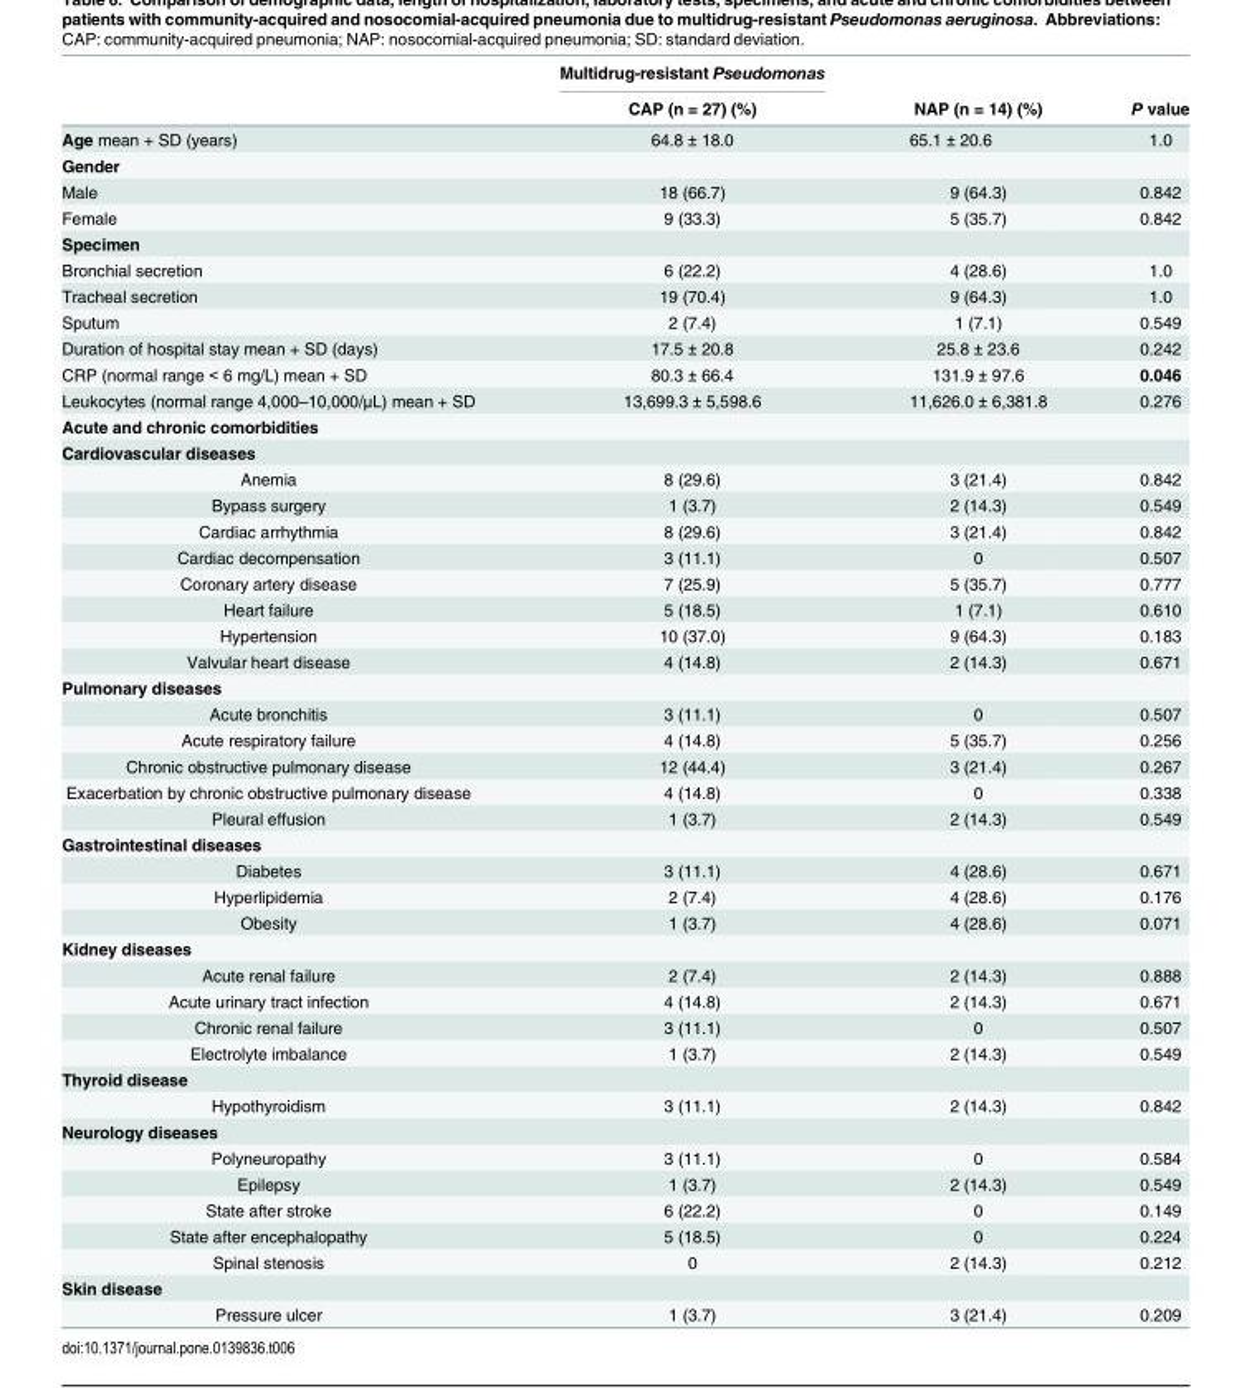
<table><thead><tr><td rowspan="2"></td><td rowspan="2">Multidrug-resistant Pseudomonas CAP (n = 27) (%)</td><td rowspan="2">NAP (n = 14) (%)</td><td rowspan="2">P value</td></tr><tr></tr></thead><tbody><tr><td>Age mean + SD (years)</td><td>64.8 ± 18.0</td><td>65.1 ± 20.6</td><td>1.0</td></tr><tr><td colspan="4">Gender</td></tr><tr><td>Male</td><td>18 (66.7)</td><td>9 (64.3)</td><td>0.842</td></tr><tr><td>Female</td><td>9 (33.3)</td><td>5 (35.7)</td><td>0.842</td></tr><tr><td colspan="4">Specimen</td></tr><tr><td>Bronchial secretion</td><td>6 (22.2)</td><td>4 (28.6)</td><td>1.0</td></tr><tr><td>Tracheal secretion</td><td>19 (70.4)</td><td>9 (64.3)</td><td>1.0</td></tr><tr><td>Sputum</td><td>2 (7.4)</td><td>1 (7.1)</td><td>0.549</td></tr><tr><td>Duration of hospital stay mean + SD (days)</td><td>17.5 ± 20.8</td><td>25.8 ± 23.6</td><td>0.242</td></tr><tr><td>CRP (normal range &lt; 6 mg/L) mean + SD</td><td>80.3 ± 66.4</td><td>131.9 ± 97.6</td><td>0.046</td></tr><tr><td>Leukocytes (normal range 4,000–10,000/μL) mean + SD</td><td>13,699.3 ± 5,598.6</td><td>11,626.0 ± 6,381.8</td><td>0.276</td></tr><tr><td colspan="4">Acute and chronic comorbidities</td></tr><tr><td colspan="4">Cardiovascular diseases</td></tr><tr><td>Anemia</td><td>8 (29.6)</td><td>3 (21.4)</td><td>0.842</td></tr><tr><td>Bypass surgery</td><td>1 (3.7)</td><td>2 (14.3)</td><td>0.549</td></tr><tr><td>Cardiac arrhythmia</td><td>8 (29.6)</td><td>3 (21.4)</td><td>0.842</td></tr><tr><td>Cardiac decompensation</td><td>3 (11.1)</td><td>0</td><td>0.507</td></tr><tr><td>Coronary artery disease</td><td>7 (25.9)</td><td>5 (35.7)</td><td>0.777</td></tr><tr><td>Heart failure</td><td>5 (18.5)</td><td>1 (7.1)</td><td>0.610</td></tr><tr><td>Hypertension</td><td>10 (37.0)</td><td>9 (64.3)</td><td>0.183</td></tr><tr><td>Valvular heart disease</td><td>4 (14.8)</td><td>2 (14.3)</td><td>0.671</td></tr><tr><td colspan="4">Pulmonary diseases</td></tr><tr><td>Acute bronchitis</td><td>3 (11.1)</td><td>0</td><td>0.507</td></tr><tr><td>Acute respiratory failure</td><td>4 (14.8)</td><td>5 (35.7)</td><td>0.256</td></tr><tr><td>Chronic obstructive pulmonary disease</td><td>12 (44.4)</td><td>3 (21.4)</td><td>0.267</td></tr><tr><td>Exacerbation by chronic obstructive pulmonary disease</td><td>4 (14.8)</td><td>0</td><td>0.338</td></tr><tr><td>Pleural effusion</td><td>1 (3.7)</td><td>2 (14.3)</td><td>0.549</td></tr><tr><td colspan="4">Gastrointestinal diseases</td></tr><tr><td>Diabetes</td><td>3 (11.1)</td><td>4 (28.6)</td><td>0.671</td></tr><tr><td>Hyperlipidemia</td><td>2 (7.4)</td><td>4 (28.6)</td><td>0.176</td></tr><tr><td>Obesity</td><td>1 (3.7)</td><td>4 (28.6)</td><td>0.071</td></tr><tr><td colspan="4">Kidney diseases</td></tr><tr><td>Acute renal failure</td><td>2 (7.4)</td><td>2 (14.3)</td><td>0.888</td></tr><tr><td>Acute urinary tract infection</td><td>4 (14.8)</td><td>2 (14.3)</td><td>0.671</td></tr><tr><td>Chronic renal failure</td><td>3 (11.1)</td><td>0</td><td>0.507</td></tr><tr><td>Electrolyte imbalance</td><td>1 (3.7)</td><td>2 (14.3)</td><td>0.549</td></tr><tr><td colspan="4">Thyroid disease</td></tr><tr><td>Hypothyroidism</td><td>3 (11.1)</td><td>2 (14.3)</td><td>0.842</td></tr><tr><td colspan="4">Neurology diseases</td></tr><tr><td>Polyneuropathy</td><td>3 (11.1)</td><td>0</td><td>0.584</td></tr><tr><td>Epilepsy</td><td>1 (3.7)</td><td>2 (14.3)</td><td>0.549</td></tr><tr><td>State after stroke</td><td>6 (22.2)</td><td>0</td><td>0.149</td></tr><tr><td>State after encephalopathy</td><td>5 (18.5)</td><td>0</td><td>0.224</td></tr><tr><td>Spinal stenosis</td><td>0</td><td>2 (14.3)</td><td>0.212</td></tr><tr><td colspan="4">Skin disease</td></tr><tr><td>Pressure ulcer</td><td>1 (3.7)</td><td>3 (21.4)</td><td>0.209</td></tr></tbody></table>